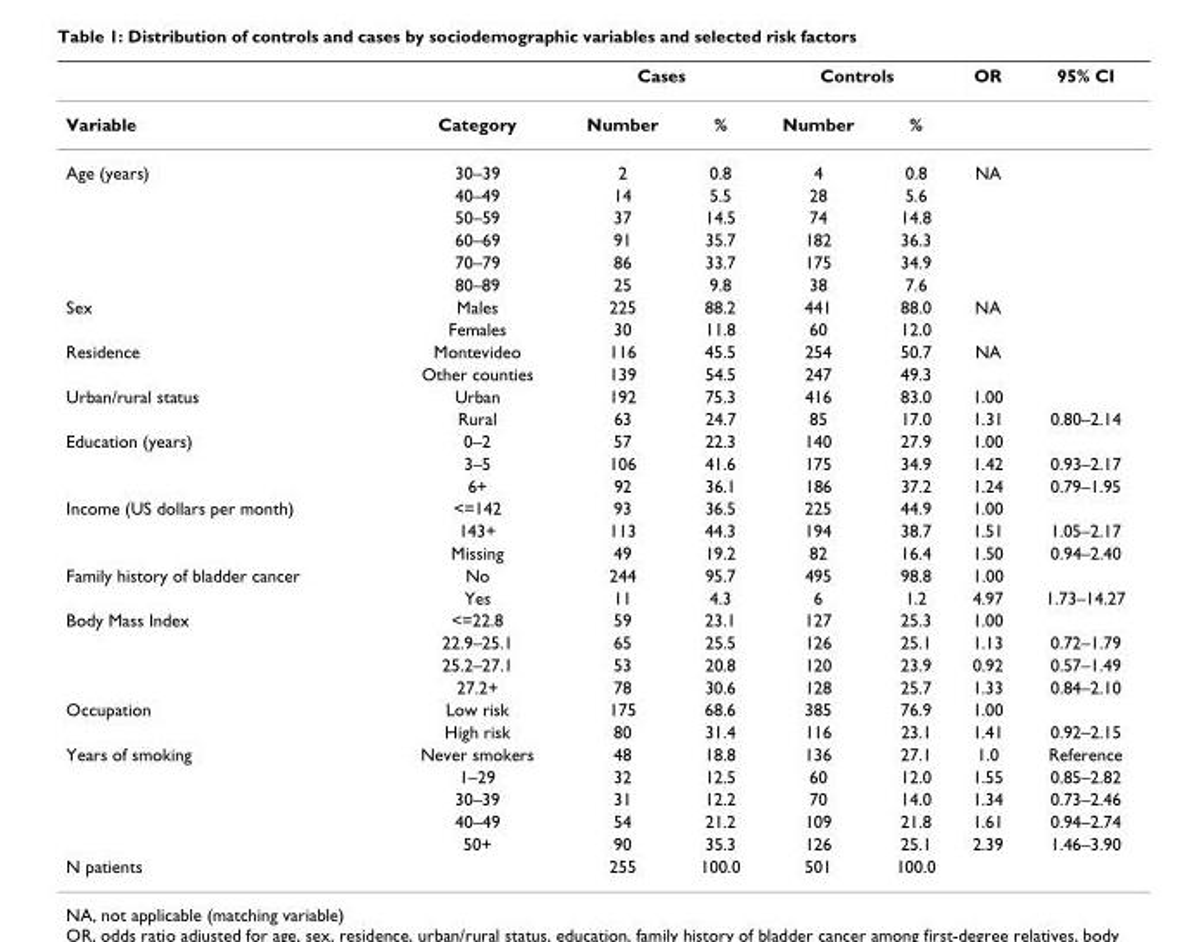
<table><thead><tr><td rowspan="2">Variable</td><td rowspan="2">Category</td><td colspan="2">Cases</td><td colspan="2">Controls</td><td rowspan="2">OR</td><td rowspan="2">95% CI</td></tr><tr><td>Number</td><td>%</td><td>Number</td><td>%</td></tr></thead><tbody><tr><td rowspan="6">Age (years)</td><td>30–39</td><td>2</td><td>0.8</td><td>4</td><td>0.8</td><td>NA</td><td></td></tr><tr><td>40–49</td><td>14</td><td>5.5</td><td>28</td><td>5.6</td><td></td><td></td></tr><tr><td>50–59</td><td>37</td><td>14.5</td><td>74</td><td>14.8</td><td></td><td></td></tr><tr><td>60–69</td><td>91</td><td>35.7</td><td>182</td><td>36.3</td><td></td><td></td></tr><tr><td>70–79</td><td>86</td><td>33.7</td><td>175</td><td>34.9</td><td></td><td></td></tr><tr><td>80–89</td><td>25</td><td>9.8</td><td>38</td><td>7.6</td><td></td><td></td></tr><tr><td rowspan="2">Sex</td><td>Males</td><td>225</td><td>88.2</td><td>441</td><td>88.0</td><td>NA</td><td></td></tr><tr><td>Females</td><td>30</td><td>11.8</td><td>60</td><td>12.0</td><td></td><td></td></tr><tr><td rowspan="2">Residence</td><td>Montevideo</td><td>116</td><td>45.5</td><td>254</td><td>50.7</td><td>NA</td><td></td></tr><tr><td>Other counties</td><td>139</td><td>54.5</td><td>247</td><td>49.3</td><td></td><td></td></tr><tr><td rowspan="2">Urban/rural status</td><td>Urban</td><td>192</td><td>75.3</td><td>416</td><td>83.0</td><td>1.00</td><td></td></tr><tr><td>Rural</td><td>63</td><td>24.7</td><td>85</td><td>17.0</td><td>1.31</td><td>0.80–2.14</td></tr><tr><td rowspan="3">Education (years)</td><td>0–2</td><td>57</td><td>22.3</td><td>140</td><td>27.9</td><td>1.00</td><td></td></tr><tr><td>3–5</td><td>106</td><td>41.6</td><td>175</td><td>34.9</td><td>1.42</td><td>0.93–2.17</td></tr><tr><td>6+</td><td>92</td><td>36.1</td><td>186</td><td>37.2</td><td>1.24</td><td>0.79–1.95</td></tr><tr><td rowspan="3">Income (US dollars per month)</td><td>&lt;=142</td><td>93</td><td>36.5</td><td>225</td><td>44.9</td><td>1.00</td><td></td></tr><tr><td>143+</td><td>113</td><td>44.3</td><td>194</td><td>38.7</td><td>1.51</td><td>1.05–2.17</td></tr><tr><td>Missing</td><td>49</td><td>19.2</td><td>82</td><td>16.4</td><td>1.50</td><td>0.94–2.40</td></tr><tr><td rowspan="2">Family history of bladder cancer</td><td>No</td><td>244</td><td>95.7</td><td>495</td><td>98.8</td><td>1.00</td><td></td></tr><tr><td>Yes</td><td>11</td><td>4.3</td><td>6</td><td>1.2</td><td>4.97</td><td>1.73–14.27</td></tr><tr><td rowspan="4">Body Mass Index</td><td>&lt;=22.8</td><td>59</td><td>23.1</td><td>127</td><td>25.3</td><td>1.00</td><td></td></tr><tr><td>22.9–25.1</td><td>65</td><td>25.5</td><td>126</td><td>25.1</td><td>1.13</td><td>0.72–1.79</td></tr><tr><td>25.2–27.1</td><td>53</td><td>20.8</td><td>120</td><td>23.9</td><td>0.92</td><td>0.57–1.49</td></tr><tr><td>27.2+</td><td>78</td><td>30.6</td><td>128</td><td>25.7</td><td>1.33</td><td>0.84–2.10</td></tr><tr><td rowspan="2">Occupation</td><td>Low risk</td><td>175</td><td>68.6</td><td>385</td><td>76.9</td><td>1.00</td><td></td></tr><tr><td>High risk</td><td>80</td><td>31.4</td><td>116</td><td>23.1</td><td>1.41</td><td>0.92–2.15</td></tr><tr><td rowspan="5">Years of smoking</td><td>Never smokers</td><td>48</td><td>18.8</td><td>136</td><td>27.1</td><td>1.0</td><td>Reference</td></tr><tr><td>1–29</td><td>32</td><td>12.5</td><td>60</td><td>12.0</td><td>1.55</td><td>0.85–2.82</td></tr><tr><td>30–39</td><td>31</td><td>12.2</td><td>70</td><td>14.0</td><td>1.34</td><td>0.73–2.46</td></tr><tr><td>40–49</td><td>54</td><td>21.2</td><td>109</td><td>21.8</td><td>1.61</td><td>0.94–2.74</td></tr><tr><td>50+</td><td>90</td><td>35.3</td><td>126</td><td>25.1</td><td>2.39</td><td>1.46–3.90</td></tr><tr><td>N patients</td><td></td><td>255</td><td>100.0</td><td>501</td><td>100.0</td><td></td><td></td></tr></tbody></table>